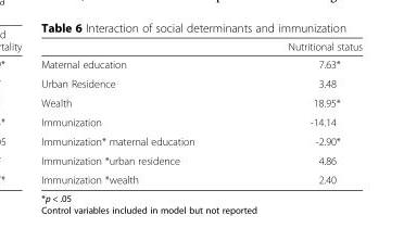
<table><thead><tr><td></td><td>Nutritional status</td></tr></thead><tbody><tr><td>Maternal education</td><td>7.63*</td></tr><tr><td>Urban Residence</td><td>3.48</td></tr><tr><td>Wealth</td><td>18.95*</td></tr><tr><td>Immunization</td><td>-14.14</td></tr><tr><td>Immunization* maternal education</td><td>-2.90*</td></tr><tr><td>Immunization *urban residence</td><td>4.86</td></tr><tr><td>Immunization *wealth</td><td>2.40</td></tr></tbody></table>